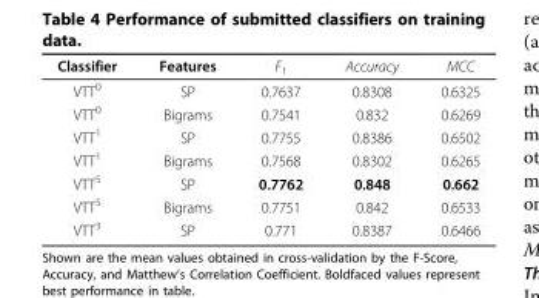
<table><thead><tr><td>Classifier</td><td>Features</td><td>F<sub>1</sub></td><td>Accuracy</td><td>MCC</td></tr></thead><tbody><tr><td>VTT<sup>0</sup></td><td>SP</td><td>0.7637</td><td>0.8308</td><td>0.6325</td></tr><tr><td>VTT<sup>0</sup></td><td>Bigrams</td><td>0.7541</td><td>0.832</td><td>0.6269</td></tr><tr><td>VTT<sup>1</sup></td><td>SP</td><td>0.7755</td><td>0.8386</td><td>0.6502</td></tr><tr><td>VTT<sup>1</sup></td><td>Bigrams</td><td>0.7568</td><td>0.8302</td><td>0.6265</td></tr><tr><td>VTT<sup>5</sup></td><td>SP</td><td>0.7762</td><td>0.848</td><td>0.662</td></tr><tr><td>VTT<sup>5</sup></td><td>Bigrams</td><td>0.7751</td><td>0.842</td><td>0.6533</td></tr><tr><td>VTT<sup>3</sup></td><td>SP</td><td>0.771</td><td>0.8387</td><td>0.6466</td></tr></tbody></table>